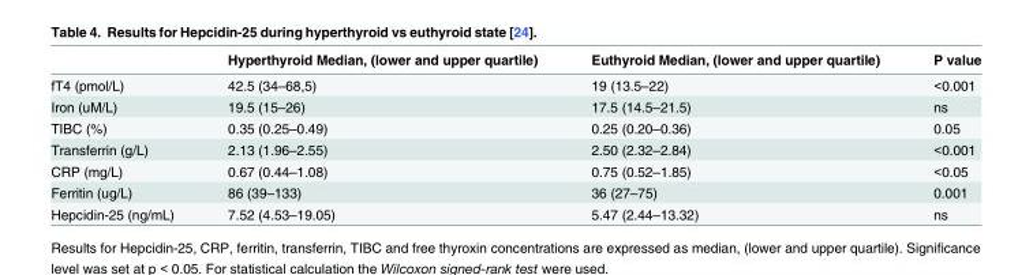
<table><thead><tr><td></td><td>Hyperthyroid Median, (lower and upper quartile)</td><td>Euthyroid Median, (lower and upper quartile)</td><td>P value</td></tr></thead><tbody><tr><td>fT4 (pmol/L)</td><td>42.5 (34–68,5)</td><td>19 (13.5–22)</td><td>&lt;0.001</td></tr><tr><td>Iron (uM/L)</td><td>19.5 (15–26)</td><td>17.5 (14.5–21.5)</td><td>ns</td></tr><tr><td>TIBC (%)</td><td>0.35 (0.25–0.49)</td><td>0.25 (0.20–0.36)</td><td>0.05</td></tr><tr><td>Transferrin (g/L)</td><td>2.13 (1.96–2.55)</td><td>2.50 (2.32–2.84)</td><td>&lt;0.001</td></tr><tr><td>CRP (mg/L)</td><td>0.67 (0.44–1.08)</td><td>0.75 (0.52–1.85)</td><td>&lt;0.05</td></tr><tr><td>Ferritin (ug/L)</td><td>86 (39–133)</td><td>36 (27–75)</td><td>0.001</td></tr><tr><td>Hepcidin-25 (ng/mL)</td><td>7.52 (4.53–19.05)</td><td>5.47 (2.44–13.32)</td><td>ns</td></tr></tbody></table>